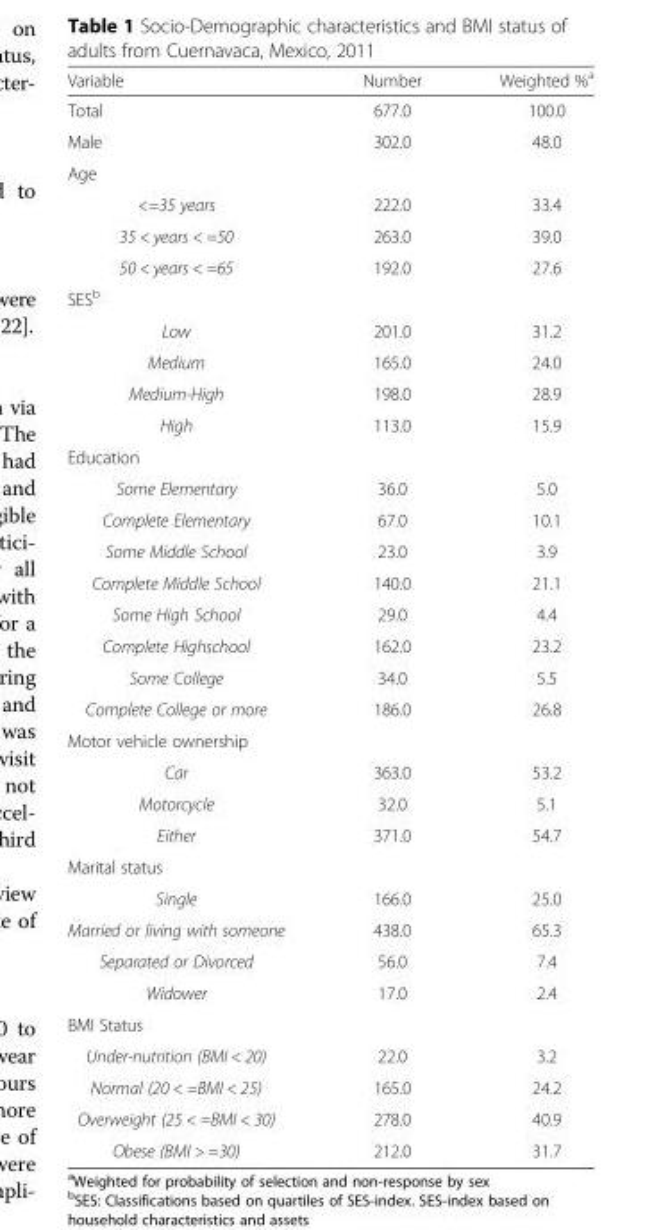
<table><thead><tr><td>Variable</td><td>Number</td><td>Weighted %<sup>a</sup></td></tr></thead><tbody><tr><td>Total</td><td>677.0</td><td>100.0</td></tr><tr><td>Male</td><td>302.0</td><td>48.0</td></tr><tr><td colspan="3">Age</td></tr><tr><td>&lt;=35 years</td><td>222.0</td><td>33.4</td></tr><tr><td>35 &lt; years &lt; =50</td><td>263.0</td><td>39.0</td></tr><tr><td>50 &lt; years &lt; =65</td><td>192.0</td><td>27.6</td></tr><tr><td colspan="3">SES<sup>b</sup></td></tr><tr><td>Low</td><td>201.0</td><td>31.2</td></tr><tr><td>Medium</td><td>165.0</td><td>24.0</td></tr><tr><td>Medium-High</td><td>198.0</td><td>28.9</td></tr><tr><td>High</td><td>113.0</td><td>15.9</td></tr><tr><td colspan="3">Education</td></tr><tr><td>Some Elementary</td><td>36.0</td><td>5.0</td></tr><tr><td>Complete Elementary</td><td>67.0</td><td>10.1</td></tr><tr><td>Some Middle School</td><td>23.0</td><td>3.9</td></tr><tr><td>Complete Middle School</td><td>140.0</td><td>21.1</td></tr><tr><td>Some High School</td><td>29.0</td><td>4.4</td></tr><tr><td>Complete Highschool</td><td>162.0</td><td>23.2</td></tr><tr><td>Some College</td><td>34.0</td><td>5.5</td></tr><tr><td>Complete College or more</td><td>186.0</td><td>26.8</td></tr><tr><td colspan="3">Motor vehicle ownership</td></tr><tr><td>Car</td><td>363.0</td><td>53.2</td></tr><tr><td>Motorcycle</td><td>32.0</td><td>5.1</td></tr><tr><td>Either</td><td>371.0</td><td>54.7</td></tr><tr><td colspan="3">Marital status</td></tr><tr><td>Single</td><td>166.0</td><td>25.0</td></tr><tr><td>Married or living with someone</td><td>438.0</td><td>65.3</td></tr><tr><td>Separated or Divorced</td><td>56.0</td><td>7.4</td></tr><tr><td>Widower</td><td>17.0</td><td>2.4</td></tr><tr><td colspan="3">BMI Status</td></tr><tr><td>Under-nutrition (BMI &lt; 20)</td><td>22.0</td><td>3.2</td></tr><tr><td>Normal (20 &lt; =BMI &lt; 25)</td><td>165.0</td><td>24.2</td></tr><tr><td>Overweight (25 &lt; =BMI &lt; 30)</td><td>278.0</td><td>40.9</td></tr><tr><td>Obese (BMI &gt; =30)</td><td>212.0</td><td>31.7</td></tr></tbody></table>